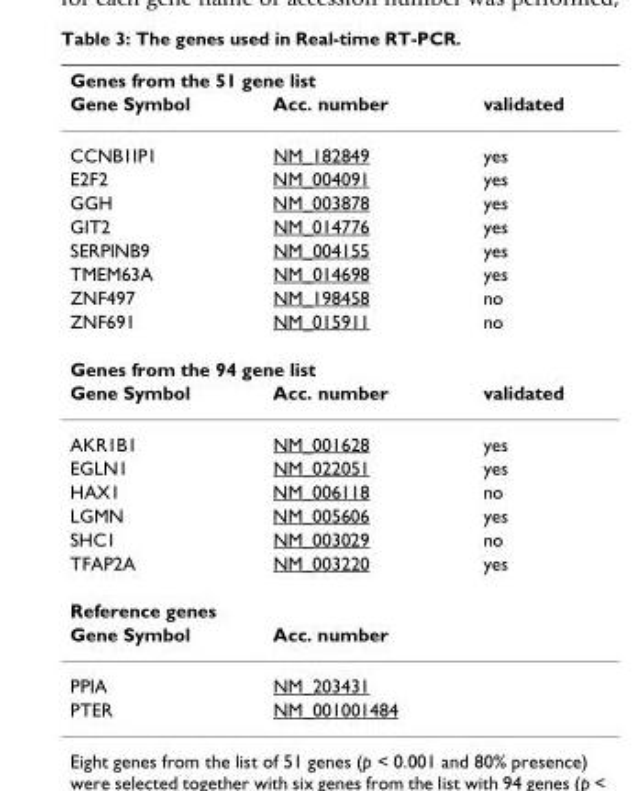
<table><thead><tr><td colspan="3">Genes from the 51 gene list</td></tr><tr><td>Gene Symbol</td><td>Acc. number</td><td>validated</td></tr></thead><tbody><tr><td>CCNB1IP1</td><td>NM_182849</td><td>yes</td></tr><tr><td>E2F2</td><td>NM_004091</td><td>yes</td></tr><tr><td>GGH</td><td>NM_003878</td><td>yes</td></tr><tr><td>GIT2</td><td>NM_014776</td><td>yes</td></tr><tr><td>SERPINB9</td><td>NM_004155</td><td>yes</td></tr><tr><td>TMEM63A</td><td>NM_014698</td><td>yes</td></tr><tr><td>ZNF497</td><td>NM_198458</td><td>no</td></tr><tr><td>ZNF691</td><td>NM_015911</td><td>no</td></tr><tr><td colspan="3">Genes from the 94 gene list</td></tr><tr><td>Gene Symbol</td><td>Acc. number</td><td>validated</td></tr><tr><td>AKR1B1</td><td>NM_001628</td><td>yes</td></tr><tr><td>EGLN1</td><td>NM_022051</td><td>yes</td></tr><tr><td>HAX1</td><td>NM_006118</td><td>no</td></tr><tr><td>LGMN</td><td>NM_005606</td><td>yes</td></tr><tr><td>SHC1</td><td>NM_003029</td><td>no</td></tr><tr><td>TFAP2A</td><td>NM_003220</td><td>yes</td></tr><tr><td colspan="3">Reference genes</td></tr><tr><td>Gene Symbol</td><td>Acc. number</td><td></td></tr><tr><td>PPIA</td><td>NM_203431</td><td></td></tr><tr><td>PTER</td><td>NM_001001484</td><td></td></tr></tbody></table>